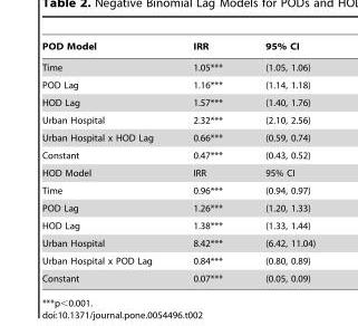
<table><thead><tr><td>POD Model</td><td>IRR</td><td>95% CI</td></tr></thead><tbody><tr><td>Time</td><td>1.05***</td><td>(1.05, 1.06)</td></tr><tr><td>POD Lag</td><td>1.16***</td><td>(1.14, 1.18)</td></tr><tr><td>HOD Lag</td><td>1.57***</td><td>(1.40, 1.76)</td></tr><tr><td>Urban Hospital</td><td>2.32***</td><td>(2.10, 2.56)</td></tr><tr><td>Urban Hospital x HOD Lag</td><td>0.66***</td><td>(0.59, 0.74)</td></tr><tr><td>Constant</td><td>0.47***</td><td>(0.43, 0.52)</td></tr><tr><td>HOD Model</td><td>IRR</td><td>95% CI</td></tr><tr><td>Time</td><td>0.96***</td><td>(0.94, 0.97)</td></tr><tr><td>POD Lag</td><td>1.26***</td><td>(1.20, 1.33)</td></tr><tr><td>HOD Lag</td><td>1.38***</td><td>(1.33, 1.44)</td></tr><tr><td>Urban Hospital</td><td>8.42***</td><td>(6.42, 11.04)</td></tr><tr><td>Urban Hospital x POD Lag</td><td>0.84***</td><td>(0.80, 0.89)</td></tr><tr><td>Constant</td><td>0.07***</td><td>(0.05, 0.09)</td></tr></tbody></table>